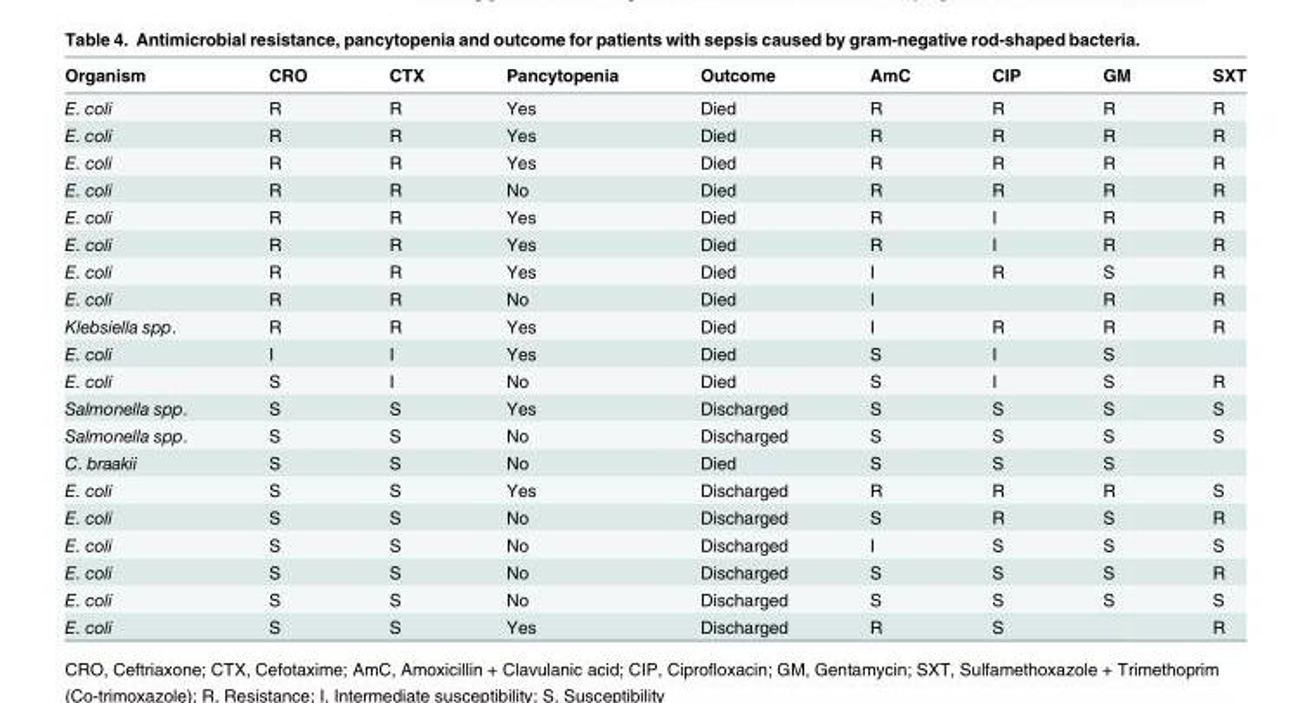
<table><thead><tr><td>Organism</td><td>CRO</td><td>CTX</td><td>Pancytopenia</td><td>Outcome</td><td>AmC</td><td>CIP</td><td>GM</td><td>SXT</td></tr></thead><tbody><tr><td>E. coli</td><td>R</td><td>R</td><td>Yes</td><td>Died</td><td>R</td><td>R</td><td>R</td><td>R</td></tr><tr><td>E. coli</td><td>R</td><td>R</td><td>Yes</td><td>Died</td><td>R</td><td>R</td><td>R</td><td>R</td></tr><tr><td>E. coli</td><td>R</td><td>R</td><td>Yes</td><td>Died</td><td>R</td><td>R</td><td>R</td><td>R</td></tr><tr><td>E. coli</td><td>R</td><td>R</td><td>No</td><td>Died</td><td>R</td><td>R</td><td>R</td><td>R</td></tr><tr><td>E. coli</td><td>R</td><td>R</td><td>Yes</td><td>Died</td><td>R</td><td>I</td><td>R</td><td>R</td></tr><tr><td>E. coli</td><td>R</td><td>R</td><td>Yes</td><td>Died</td><td>R</td><td>I</td><td>R</td><td>R</td></tr><tr><td>E. coli</td><td>R</td><td>R</td><td>Yes</td><td>Died</td><td>I</td><td>R</td><td>S</td><td>R</td></tr><tr><td>E. coli</td><td>R</td><td>R</td><td>No</td><td>Died</td><td>I</td><td></td><td>R</td><td>R</td></tr><tr><td>Klebsiella spp.</td><td>R</td><td>R</td><td>Yes</td><td>Died</td><td>I</td><td>R</td><td>R</td><td>R</td></tr><tr><td>E. coli</td><td>I</td><td>I</td><td>Yes</td><td>Died</td><td>S</td><td>I</td><td>S</td><td></td></tr><tr><td>E. coli</td><td>S</td><td>I</td><td>No</td><td>Died</td><td>S</td><td>I</td><td>S</td><td>R</td></tr><tr><td>Salmonella spp.</td><td>S</td><td>S</td><td>Yes</td><td>Discharged</td><td>S</td><td>S</td><td>S</td><td>S</td></tr><tr><td>Salmonella spp.</td><td>S</td><td>S</td><td>No</td><td>Discharged</td><td>S</td><td>S</td><td>S</td><td>S</td></tr><tr><td>C. braakii</td><td>S</td><td>S</td><td>No</td><td>Died</td><td>S</td><td>S</td><td>S</td><td></td></tr><tr><td>E. coli</td><td>S</td><td>S</td><td>Yes</td><td>Discharged</td><td>R</td><td>R</td><td>R</td><td>S</td></tr><tr><td>E. coli</td><td>S</td><td>S</td><td>No</td><td>Discharged</td><td>S</td><td>R</td><td>S</td><td>R</td></tr><tr><td>E. coli</td><td>S</td><td>S</td><td>No</td><td>Discharged</td><td>I</td><td>S</td><td>S</td><td>S</td></tr><tr><td>E. coli</td><td>S</td><td>S</td><td>No</td><td>Discharged</td><td>S</td><td>S</td><td>S</td><td>R</td></tr><tr><td>E. coli</td><td>S</td><td>S</td><td>No</td><td>Discharged</td><td>S</td><td>S</td><td>S</td><td>S</td></tr><tr><td>E. coli</td><td>S</td><td>S</td><td>Yes</td><td>Discharged</td><td>R</td><td>S</td><td></td><td>R</td></tr></tbody></table>